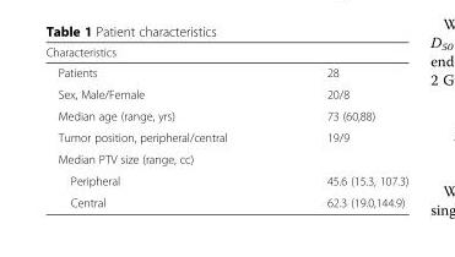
<table><thead><tr><td>Characteristics</td><td></td></tr></thead><tbody><tr><td>Patients</td><td>28</td></tr><tr><td>Sex, Male/Female</td><td>20/8</td></tr><tr><td>Median age (range, yrs)</td><td>73 (60,88)</td></tr><tr><td>Tumor position, peripheral/central</td><td>19/9</td></tr><tr><td colspan="2">Median PTV size (range, cc)</td></tr><tr><td>Peripheral</td><td>45.6 (15.3, 107.3)</td></tr><tr><td>Central</td><td>62.3 (19.0,144.9)</td></tr></tbody></table>